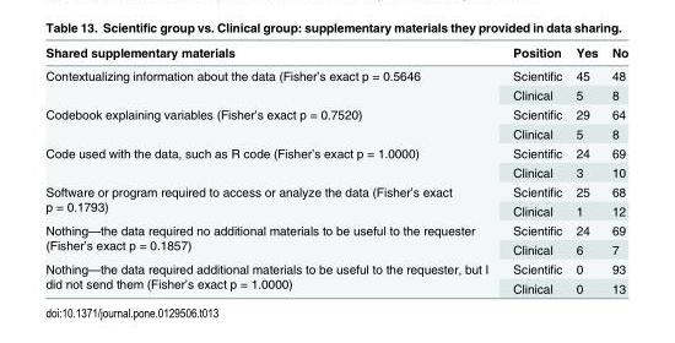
<table><thead><tr><td>Shared supplementary materials</td><td>Position</td><td>Yes</td><td>No</td></tr></thead><tbody><tr><td rowspan="2">Contextualizing information about the data (Fisher’s exact p = 0.5646</td><td>Scientific</td><td>45</td><td>48</td></tr><tr><td>Clinical</td><td>5</td><td>8</td></tr><tr><td rowspan="2">Codebook explaining variables (Fisher’s exact p = 0.7520)</td><td>Scientific</td><td>29</td><td>64</td></tr><tr><td>Clinical</td><td>5</td><td>8</td></tr><tr><td rowspan="2">Code used with the data, such as R code (Fisher’s exact p = 1.0000)</td><td>Scientific</td><td>24</td><td>69</td></tr><tr><td>Clinical</td><td>3</td><td>10</td></tr><tr><td rowspan="2">Software or program required to access or analyze the data (Fisher’s exact p = 0.1793)</td><td>Scientific</td><td>25</td><td>68</td></tr><tr><td>Clinical</td><td>1</td><td>12</td></tr><tr><td rowspan="2">Nothing—the data required no additional materials to be useful to the requester (Fisher’s exact p = 0.1857)</td><td>Scientific</td><td>24</td><td>69</td></tr><tr><td>Clinical</td><td>6</td><td>7</td></tr><tr><td rowspan="2">Nothing—the data required additional materials to be useful to the requester, but I did not send them (Fisher’s exact p = 1.0000)</td><td>Scientific</td><td>0</td><td>93</td></tr><tr><td>Clinical</td><td>0</td><td>13</td></tr></tbody></table>